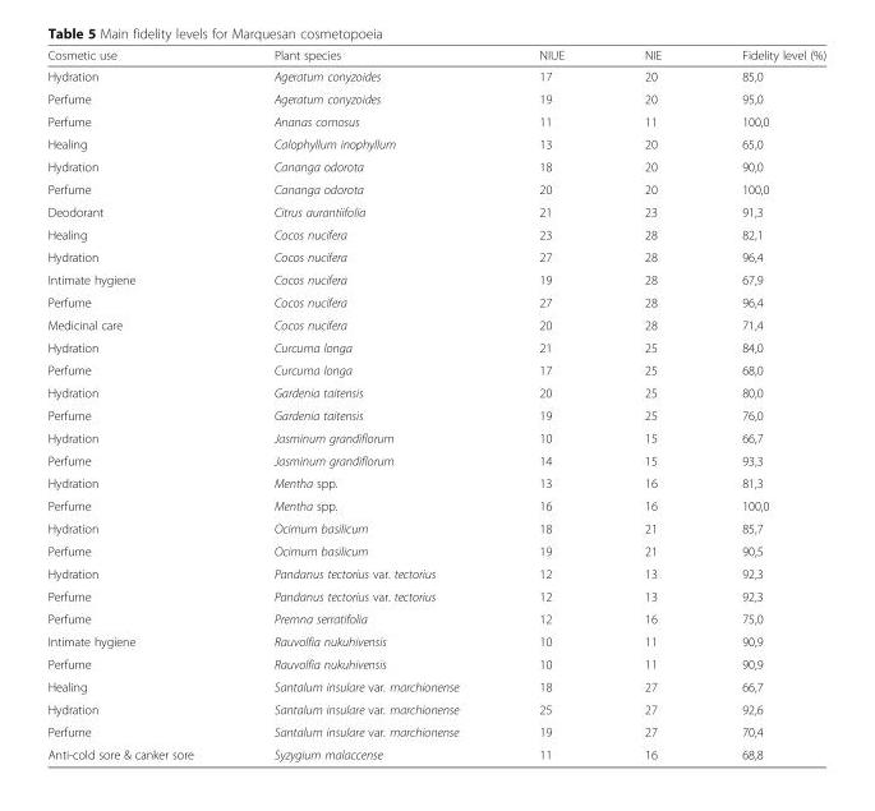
<table><thead><tr><td>Cosmetic use</td><td>Plant species</td><td>NIUE</td><td>NIE</td><td>Fidelity level (%)</td></tr></thead><tbody><tr><td>Hydration</td><td>Ageratum conyzoides</td><td>17</td><td>20</td><td>85,0</td></tr><tr><td>Perfume</td><td>Ageratum conyzoides</td><td>19</td><td>20</td><td>95,0</td></tr><tr><td>Perfume</td><td>Ananas comosus</td><td>11</td><td>11</td><td>100,0</td></tr><tr><td>Healing</td><td>Calophyllum inophyllum</td><td>13</td><td>20</td><td>65,0</td></tr><tr><td>Hydration</td><td>Cananga odorota</td><td>18</td><td>20</td><td>90,0</td></tr><tr><td>Perfume</td><td>Cananga odorota</td><td>20</td><td>20</td><td>100,0</td></tr><tr><td>Deodorant</td><td>Citrus aurantiifolia</td><td>21</td><td>23</td><td>91,3</td></tr><tr><td>Healing</td><td>Cocos nucifera</td><td>23</td><td>28</td><td>82,1</td></tr><tr><td>Hydration</td><td>Cocos nucifera</td><td>27</td><td>28</td><td>96,4</td></tr><tr><td>Intimate hygiene</td><td>Cocos nucifera</td><td>19</td><td>28</td><td>67,9</td></tr><tr><td>Perfume</td><td>Cocos nucifera</td><td>27</td><td>28</td><td>96,4</td></tr><tr><td>Medicinal care</td><td>Cocos nucifera</td><td>20</td><td>28</td><td>71,4</td></tr><tr><td>Hydration</td><td>Curcuma longa</td><td>21</td><td>25</td><td>84,0</td></tr><tr><td>Perfume</td><td>Curcuma longa</td><td>17</td><td>25</td><td>68,0</td></tr><tr><td>Hydration</td><td>Gardenia taitensis</td><td>20</td><td>25</td><td>80,0</td></tr><tr><td>Perfume</td><td>Gardenia taitensis</td><td>19</td><td>25</td><td>76,0</td></tr><tr><td>Hydration</td><td>Jasminum grandiflorum</td><td>10</td><td>15</td><td>66,7</td></tr><tr><td>Perfume</td><td>Jasminum grandiflorum</td><td>14</td><td>15</td><td>93,3</td></tr><tr><td>Hydration</td><td>Mentha spp.</td><td>13</td><td>16</td><td>81,3</td></tr><tr><td>Perfume</td><td>Mentha spp.</td><td>16</td><td>16</td><td>100,0</td></tr><tr><td>Hydration</td><td>Ocimum basilicum</td><td>18</td><td>21</td><td>85,7</td></tr><tr><td>Perfume</td><td>Ocimum basilicum</td><td>19</td><td>21</td><td>90,5</td></tr><tr><td>Hydration</td><td>Pandanus tectorius var. tectorius</td><td>12</td><td>13</td><td>92,3</td></tr><tr><td>Perfume</td><td>Pandanus tectorius var. tectorius</td><td>12</td><td>13</td><td>92,3</td></tr><tr><td>Perfume</td><td>Premna serratifolia</td><td>12</td><td>16</td><td>75,0</td></tr><tr><td>Intimate hygiene</td><td>Rauvolfia nukuhivensis</td><td>10</td><td>11</td><td>90,9</td></tr><tr><td>Perfume</td><td>Rauvolfia nukuhivensis</td><td>10</td><td>11</td><td>90,9</td></tr><tr><td>Healing</td><td>Santalum insulare var. marchionense</td><td>18</td><td>27</td><td>66,7</td></tr><tr><td>Hydration</td><td>Santalum insulare var. marchionense</td><td>25</td><td>27</td><td>92,6</td></tr><tr><td>Perfume</td><td>Santalum insulare var. marchionense</td><td>19</td><td>27</td><td>70,4</td></tr><tr><td>Anti-cold sore &amp; canker sore</td><td>Syzygium malaccense</td><td>11</td><td>16</td><td>68,8</td></tr></tbody></table>